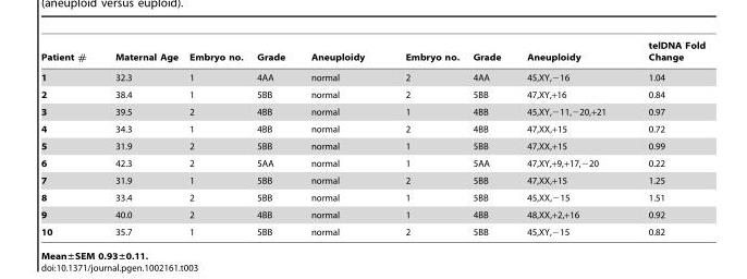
<table><thead><tr><td>Patient #</td><td>Maternal Age</td><td>Embryo no.</td><td>Grade</td><td>Aneuploidy</td><td>Embryo no.</td><td>Grade</td><td>Aneuploidy</td><td>telDNA Fold Change</td></tr></thead><tbody><tr><td>1</td><td>32.3</td><td>1</td><td>4AA</td><td>normal</td><td>2</td><td>4AA</td><td>45,XY,−16</td><td>1.04</td></tr><tr><td>2</td><td>38.4</td><td>1</td><td>5BB</td><td>normal</td><td>2</td><td>5BB</td><td>47,XY,+16</td><td>0.84</td></tr><tr><td>3</td><td>39.5</td><td>2</td><td>4BB</td><td>normal</td><td>1</td><td>4BB</td><td>45,XY,−11,−20,+21</td><td>0.97</td></tr><tr><td>4</td><td>34.3</td><td>1</td><td>4BB</td><td>normal</td><td>2</td><td>4BB</td><td>47,XX,+15</td><td>0.72</td></tr><tr><td>5</td><td>31.9</td><td>2</td><td>5BB</td><td>normal</td><td>1</td><td>5BB</td><td>47,XX,+15</td><td>0.99</td></tr><tr><td>6</td><td>42.3</td><td>2</td><td>5AA</td><td>normal</td><td>1</td><td>5AA</td><td>47,XY,+9,+17,−20</td><td>0.22</td></tr><tr><td>7</td><td>31.9</td><td>1</td><td>5BB</td><td>normal</td><td>2</td><td>5BB</td><td>47,XX,+15</td><td>1.25</td></tr><tr><td>8</td><td>33.4</td><td>2</td><td>5BB</td><td>normal</td><td>1</td><td>5BB</td><td>45,XX,−15</td><td>1.51</td></tr><tr><td>9</td><td>40.0</td><td>2</td><td>4BB</td><td>normal</td><td>1</td><td>4BB</td><td>48,XX,+2,+16</td><td>0.92</td></tr><tr><td>10</td><td>35.7</td><td>1</td><td>5BB</td><td>normal</td><td>2</td><td>5BB</td><td>45,XY,−15</td><td>0.82</td></tr></tbody></table>